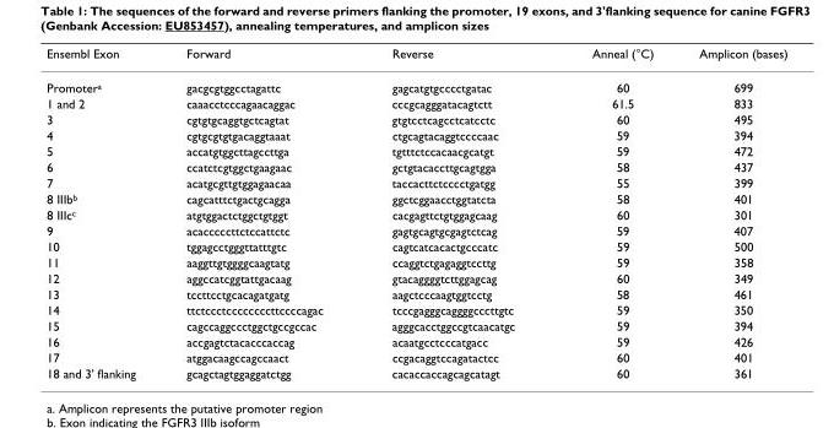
<table><thead><tr><td>Ensembl Exon</td><td>Forward</td><td>Reverse</td><td>Anneal (°C)</td><td>Amplicon (bases)</td></tr></thead><tbody><tr><td>Promoter<sup>a</sup></td><td>gacgcgtggcctagattc</td><td>gagcatgtgcccctgatac</td><td>60</td><td>699</td></tr><tr><td>1 and 2</td><td>caaacctcccagaacaggac</td><td>cccgcagggatacagtctt</td><td>61.5</td><td>833</td></tr><tr><td>3</td><td>cgtgtgcaggtgctcagtat</td><td>gtgtcctcagcctcatcctc</td><td>60</td><td>495</td></tr><tr><td>4</td><td>cgtgcgtgtgacaggtaaat</td><td>ctgcagtacaggtccccaac</td><td>59</td><td>394</td></tr><tr><td>5</td><td>accatgtggcttagccttga</td><td>tgtttctccacaacgcatgt</td><td>59</td><td>472</td></tr><tr><td>6</td><td>ccatctcgtggctgaagaac</td><td>gctgtacaccttgcagtgga</td><td>58</td><td>437</td></tr><tr><td>7</td><td>acatgcgttgtggagaacaa</td><td>taccacttctcccctgatgg</td><td>55</td><td>399</td></tr><tr><td>8 IIIb<sup>b</sup></td><td>cagcatttctgactgcagga</td><td>ggctcggaacctggtatcta</td><td>58</td><td>401</td></tr><tr><td>8 IIIc<sup>c</sup></td><td>atgtggactctggctgtggt</td><td>cacgagttctgtggagcaag</td><td>60</td><td>301</td></tr><tr><td>9</td><td>acacccccttctccattctc</td><td>gagtgcagtgcgagtctcag</td><td>59</td><td>407</td></tr><tr><td>10</td><td>tggagcctgggttatttgtc</td><td>cagtcatcacactgcccatc</td><td>59</td><td>500</td></tr><tr><td>11</td><td>aaggttgtggggcaagtatg</td><td>ccaggtctgagaggtccttg</td><td>59</td><td>358</td></tr><tr><td>12</td><td>aggccatcggtattgacaag</td><td>gtacaggggtcttggagcag</td><td>60</td><td>349</td></tr><tr><td>13</td><td>tccttcctgcacagatgatg</td><td>aagctcccaagtggtcctg</td><td>58</td><td>461</td></tr><tr><td>14</td><td>ttctccctccccccccttccccagac</td><td>tcccgagggcaggggcccttgtc</td><td>59</td><td>350</td></tr><tr><td>15</td><td>cagccaggccctggctgccgccac</td><td>agggcacctggccgtcaacatgc</td><td>59</td><td>394</td></tr><tr><td>16</td><td>accgagtctacacccaccag</td><td>acaatgcctcccatgacc</td><td>59</td><td>426</td></tr><tr><td>17</td><td>atggacaagccagccaact</td><td>ccgacaggtccagatactcc</td><td>60</td><td>401</td></tr><tr><td>18 and 3&#x27; flanking</td><td>gcagctagtggaggatctgg</td><td>cacaccaccagcagcatagt</td><td>60</td><td>361</td></tr></tbody></table>